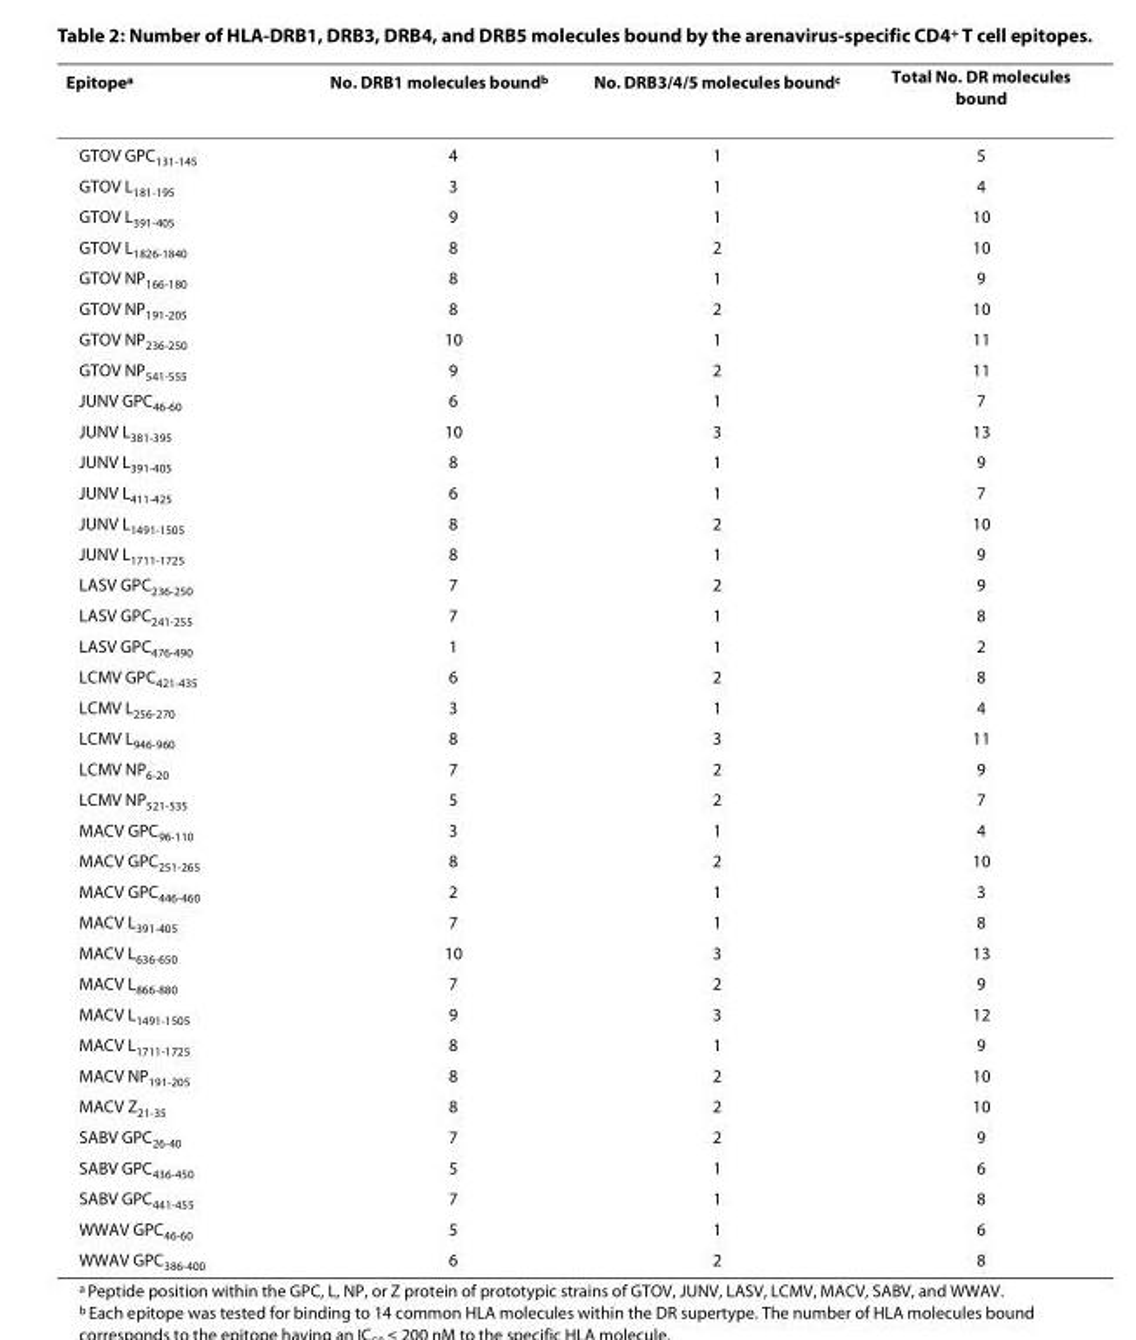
<table><thead><tr><td>Epitope<sup>a</sup></td><td>No. DRB1 molecules bound<sup>b</sup></td><td>No. DRB3/4/5 molecules bound<sup>c</sup></td><td>Total No. DR molecules bound</td></tr></thead><tbody><tr><td>GTOV GPC<sub>131-145</sub></td><td>4</td><td>1</td><td>5</td></tr><tr><td>GTOV L<sub>181-195</sub></td><td>3</td><td>1</td><td>4</td></tr><tr><td>GTOV L<sub>391-405</sub></td><td>9</td><td>1</td><td>10</td></tr><tr><td>GTOV L<sub>1826-1840</sub></td><td>8</td><td>2</td><td>10</td></tr><tr><td>GTOV NP<sub>166-180</sub></td><td>8</td><td>1</td><td>9</td></tr><tr><td>GTOV NP<sub>191-205</sub></td><td>8</td><td>2</td><td>10</td></tr><tr><td>GTOV NP<sub>236-250</sub></td><td>10</td><td>1</td><td>11</td></tr><tr><td>GTOV NP<sub>541-555</sub></td><td>9</td><td>2</td><td>11</td></tr><tr><td>JUNV GPC<sub>46-60</sub></td><td>6</td><td>1</td><td>7</td></tr><tr><td>JUNV L<sub>381-395</sub></td><td>10</td><td>3</td><td>13</td></tr><tr><td>JUNV L<sub>391-405</sub></td><td>8</td><td>1</td><td>9</td></tr><tr><td>JUNV L<sub>411-425</sub></td><td>6</td><td>1</td><td>7</td></tr><tr><td>JUNV L<sub>1491-1505</sub></td><td>8</td><td>2</td><td>10</td></tr><tr><td>JUNV L<sub>1711-1725</sub></td><td>8</td><td>1</td><td>9</td></tr><tr><td>LASV GPC<sub>236-250</sub></td><td>7</td><td>2</td><td>9</td></tr><tr><td>LASV GPC<sub>241-255</sub></td><td>7</td><td>1</td><td>8</td></tr><tr><td>LASV GPC<sub>476-490</sub></td><td>1</td><td>1</td><td>2</td></tr><tr><td>LCMV GPC<sub>421-435</sub></td><td>6</td><td>2</td><td>8</td></tr><tr><td>LCMV L<sub>256-270</sub></td><td>3</td><td>1</td><td>4</td></tr><tr><td>LCMV L<sub>946-960</sub></td><td>8</td><td>3</td><td>11</td></tr><tr><td>LCMV NP<sub>6-20</sub></td><td>7</td><td>2</td><td>9</td></tr><tr><td>LCMV NP<sub>521-535</sub></td><td>5</td><td>2</td><td>7</td></tr><tr><td>MACV GPC<sub>96-110</sub></td><td>3</td><td>1</td><td>4</td></tr><tr><td>MACV GPC<sub>251-265</sub></td><td>8</td><td>2</td><td>10</td></tr><tr><td>MACV GPC<sub>446-460</sub></td><td>2</td><td>1</td><td>3</td></tr><tr><td>MACV L<sub>391-405</sub></td><td>7</td><td>1</td><td>8</td></tr><tr><td>MACV L<sub>636-650</sub></td><td>10</td><td>3</td><td>13</td></tr><tr><td>MACV L<sub>866-880</sub></td><td>7</td><td>2</td><td>9</td></tr><tr><td>MACV L<sub>1491-1505</sub></td><td>9</td><td>3</td><td>12</td></tr><tr><td>MACV L<sub>1711-1725</sub></td><td>8</td><td>1</td><td>9</td></tr><tr><td>MACV NP<sub>191-205</sub></td><td>8</td><td>2</td><td>10</td></tr><tr><td>MACV Z<sub>21-35</sub></td><td>8</td><td>2</td><td>10</td></tr><tr><td>SABV GPC<sub>26-40</sub></td><td>7</td><td>2</td><td>9</td></tr><tr><td>SABV GPC<sub>436-450</sub></td><td>5</td><td>1</td><td>6</td></tr><tr><td>SABV GPC<sub>441-455</sub></td><td>7</td><td>1</td><td>8</td></tr><tr><td>WWAV GPC<sub>46-60</sub></td><td>5</td><td>1</td><td>6</td></tr><tr><td>WWAV GPC<sub>386-400</sub></td><td>6</td><td>2</td><td>8</td></tr></tbody></table>